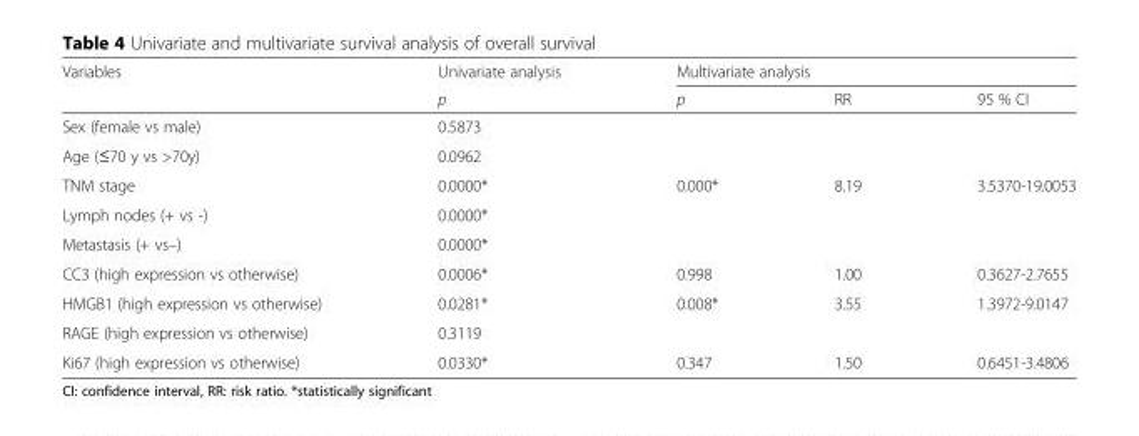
<table><thead><tr><td rowspan="2">Variables</td><td rowspan="2">Univariate analysis p</td><td colspan="3">Multivariate analysis</td></tr><tr><td>p</td><td>RR</td><td>95 % CI</td></tr></thead><tbody><tr><td>Sex (female vs male)</td><td>0.5873</td><td></td><td></td><td></td></tr><tr><td>Age (≤70 y vs &gt;70y)</td><td>0.0962</td><td></td><td></td><td></td></tr><tr><td>TNM stage</td><td>0.0000*</td><td>0.000*</td><td>8.19</td><td>3.5370-19.0053</td></tr><tr><td>Lymph nodes (+ vs -)</td><td>0.0000*</td><td></td><td></td><td></td></tr><tr><td>Metastasis (+ vs–)</td><td>0.0000*</td><td></td><td></td><td></td></tr><tr><td>CC3 (high expression vs otherwise)</td><td>0.0006*</td><td>0.998</td><td>1.00</td><td>0.3627-2.7655</td></tr><tr><td>HMGB1 (high expression vs otherwise)</td><td>0.0281*</td><td>0.008*</td><td>3.55</td><td>1.3972-9.0147</td></tr><tr><td>RAGE (high expression vs otherwise)</td><td>0.3119</td><td></td><td></td><td></td></tr><tr><td>Ki67 (high expression vs otherwise)</td><td>0.0330*</td><td>0.347</td><td>1.50</td><td>0.6451-3.4806</td></tr></tbody></table>